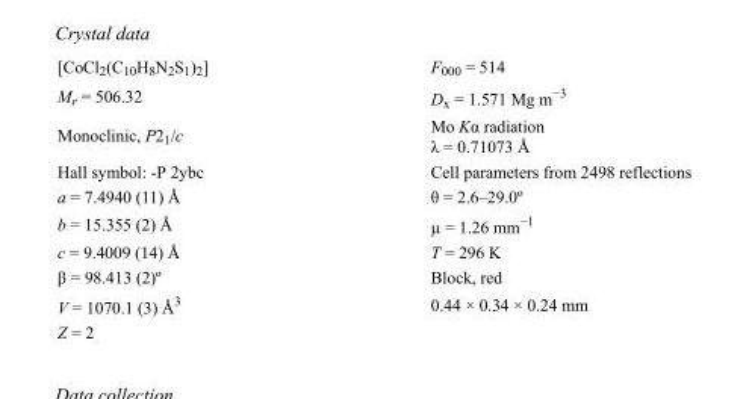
<table><tbody><tr><td>[CoCl2(C10H8N2S1)2]</td><td>F000 = 514</td></tr><tr><td>M<sub>r</sub> = 506.32</td><td>D<sub>x</sub> = 1.571 Mg m<sup>−3</sup></td></tr><tr><td>Monoclinic, P2<sub>1</sub>/c</td><td>Mo Kα radiation λ = 0.71073 Å</td></tr><tr><td>Hall symbol: -P 2ybc</td><td>Cell parameters from 2498 reflections</td></tr><tr><td>a = 7.4940 (11) Å</td><td>θ = 2.6–29.0º</td></tr><tr><td>b = 15.355 (2) Å</td><td>µ = 1.26 mm<sup>−1</sup></td></tr><tr><td>c = 9.4009 (14) Å</td><td>T = 296 K</td></tr><tr><td>β = 98.413 (2)º</td><td>Block, red</td></tr><tr><td>V = 1070.1 (3) Å<sup>3</sup></td><td>0.44 × 0.34 × 0.24 mm</td></tr><tr><td>Z = 2</td><td></td></tr></tbody></table>